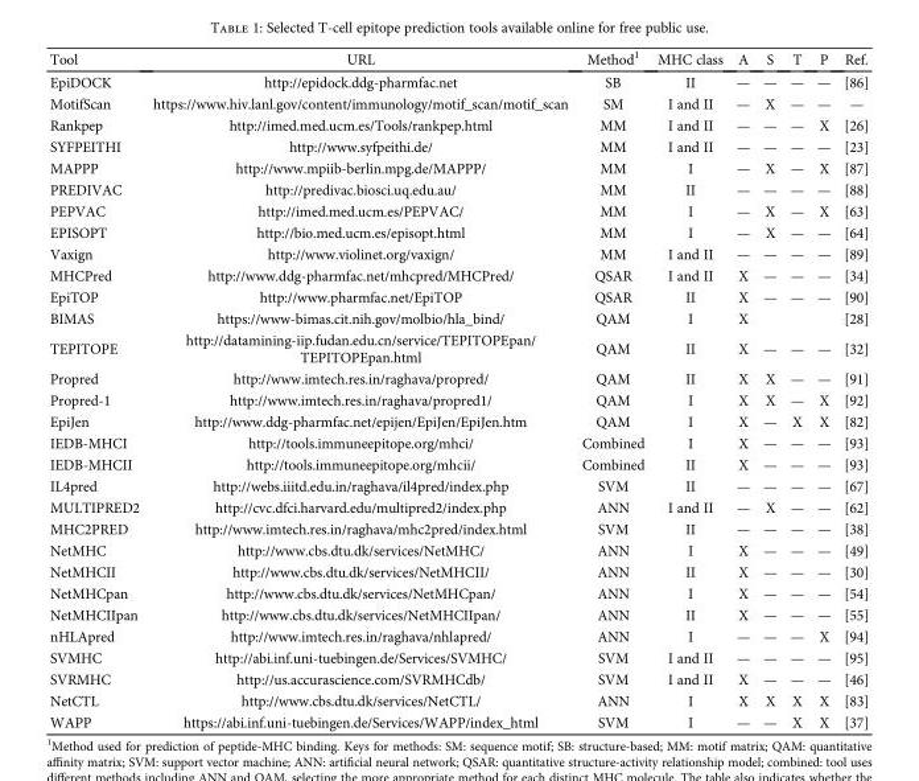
<table><thead><tr><td>Tool</td><td>URL</td><td>Method<sup>1</sup></td><td>MHC class</td><td>A</td><td>S</td><td>T</td><td>P</td><td>Ref.</td></tr></thead><tbody><tr><td>EpiDOCK</td><td>http://epidock.ddg-pharmfac.net</td><td>SB</td><td>II</td><td>—</td><td>—</td><td>—</td><td>—</td><td>[86]</td></tr><tr><td>MotifScan</td><td>https://www.hiv.lanl.gov/content/immunology/motif_scan/motif_scan</td><td>SM</td><td>I and II</td><td>—</td><td>X</td><td>—</td><td>—</td><td>—</td></tr><tr><td>Rankpep</td><td>http://imed.med.ucm.es/Tools/rankpep.html</td><td>MM</td><td>I and II</td><td>—</td><td>—</td><td>—</td><td>X</td><td>[26]</td></tr><tr><td>SYFPEITHI</td><td>http://www.syfpeithi.de/</td><td>MM</td><td>I and II</td><td>—</td><td>—</td><td>—</td><td>—</td><td>[23]</td></tr><tr><td>MAPPP</td><td>http://www.mpiib-berlin.mpg.de/MAPPP/</td><td>MM</td><td>I</td><td>—</td><td>X</td><td>—</td><td>X</td><td>[87]</td></tr><tr><td>PREDIVAC</td><td>http://predivac.biosci.uq.edu.au/</td><td>MM</td><td>II</td><td>—</td><td>—</td><td>—</td><td>—</td><td>[88]</td></tr><tr><td>PEPVAC</td><td>http://imed.med.ucm.es/PEPVAC/</td><td>MM</td><td>I</td><td>—</td><td>X</td><td>—</td><td>X</td><td>[63]</td></tr><tr><td>EPISOPT</td><td>http://bio.med.ucm.es/episopt.html</td><td>MM</td><td>I</td><td>—</td><td>X</td><td>—</td><td>—</td><td>[64]</td></tr><tr><td>Vaxign</td><td>http://www.violinet.org/vaxign/</td><td>MM</td><td>I and II</td><td>—</td><td>—</td><td>—</td><td>—</td><td>[89]</td></tr><tr><td>MHCPred</td><td>http://www.ddg-pharmfac.net/mhcpred/MHCPred/</td><td>QSAR</td><td>I and II</td><td>X</td><td>—</td><td>—</td><td>—</td><td>[34]</td></tr><tr><td>EpiTOP</td><td>http://www.pharmfac.net/EpiTOP</td><td>QSAR</td><td>II</td><td>X</td><td>—</td><td>—</td><td>—</td><td>[90]</td></tr><tr><td>BIMAS</td><td>https://www-bimas.cit.nih.gov/molbio/hla_bind/</td><td>QAM</td><td>I</td><td>X</td><td></td><td></td><td></td><td>[28]</td></tr><tr><td>TEPITOPE</td><td>http://datamining-iip.fudan.edu.cn/service/TEPITOPEpan/ TEPITOPEpan.html</td><td>QAM</td><td>II</td><td>X</td><td>—</td><td>—</td><td>—</td><td>[32]</td></tr><tr><td>Propred</td><td>http://www.imtech.res.in/raghava/propred/</td><td>QAM</td><td>II</td><td>X</td><td>X</td><td>—</td><td>—</td><td>[91]</td></tr><tr><td>Propred-1</td><td>http://www.imtech.res.in/raghava/propred1/</td><td>QAM</td><td>I</td><td>X</td><td>X</td><td>—</td><td>X</td><td>[92]</td></tr><tr><td>EpiJen</td><td>http://www.ddg-pharmfac.net/epijen/EpiJen/EpiJen.htm</td><td>QAM</td><td>I</td><td>X</td><td>—</td><td>X</td><td>X</td><td>[82]</td></tr><tr><td>IEDB-MHCI</td><td>http://tools.immuneepitope.org/mhci/</td><td>Combined</td><td>I</td><td>X</td><td>—</td><td>—</td><td>—</td><td>[93]</td></tr><tr><td>IEDB-MHCII</td><td>http://tools.immuneepitope.org/mhcii/</td><td>Combined</td><td>II</td><td>X</td><td>—</td><td>—</td><td>—</td><td>[93]</td></tr><tr><td>IL4pred</td><td>http://webs.iiitd.edu.in/raghava/il4pred/index.php</td><td>SVM</td><td>II</td><td>—</td><td>—</td><td>—</td><td>—</td><td>[67]</td></tr><tr><td>MULTIPRED2</td><td>http://cvc.dfci.harvard.edu/multipred2/index.php</td><td>ANN</td><td>I and II</td><td>—</td><td>X</td><td>—</td><td>—</td><td>[62]</td></tr><tr><td>MHC2PRED</td><td>http://www.imtech.res.in/raghava/mhc2pred/index.html</td><td>SVM</td><td>II</td><td>—</td><td>—</td><td>—</td><td>—</td><td>[38]</td></tr><tr><td>NetMHC</td><td>http://www.cbs.dtu.dk/services/NetMHC/</td><td>ANN</td><td>I</td><td>X</td><td>—</td><td>—</td><td>—</td><td>[49]</td></tr><tr><td>NetMHCII</td><td>http://www.cbs.dtu.dk/services/NetMHCII/</td><td>ANN</td><td>II</td><td>X</td><td>—</td><td>—</td><td>—</td><td>[30]</td></tr><tr><td>NetMHCpan</td><td>http://www.cbs.dtu.dk/services/NetMHCpan/</td><td>ANN</td><td>I</td><td>X</td><td>—</td><td>—</td><td>—</td><td>[54]</td></tr><tr><td>NetMHCIIpan</td><td>http://www.cbs.dtu.dk/services/NetMHCIIpan/</td><td>ANN</td><td>II</td><td>X</td><td>—</td><td>—</td><td>—</td><td>[55]</td></tr><tr><td>nHLApred</td><td>http://www.imtech.res.in/raghava/nhlapred/</td><td>ANN</td><td>I</td><td>—</td><td>—</td><td>—</td><td>X</td><td>[94]</td></tr><tr><td>SVMHC</td><td>http://abi.inf.uni-tuebingen.de/Services/SVMHC/</td><td>SVM</td><td>I and II</td><td>—</td><td>—</td><td>—</td><td>—</td><td>[95]</td></tr><tr><td>SVRMHC</td><td>http://us.accurascience.com/SVRMHCdb/</td><td>SVM</td><td>I and II</td><td>X</td><td>—</td><td>—</td><td>—</td><td>[46]</td></tr><tr><td>NetCTL</td><td>http://www.cbs.dtu.dk/services/NetCTL/</td><td>ANN</td><td>I</td><td>X</td><td>X</td><td>X</td><td>X</td><td>[83]</td></tr><tr><td>WAPP</td><td>https://abi.inf.uni-tuebingen.de/Services/WAPP/index_html</td><td>SVM</td><td>I</td><td>—</td><td>—</td><td>X</td><td>X</td><td>[37]</td></tr></tbody></table>